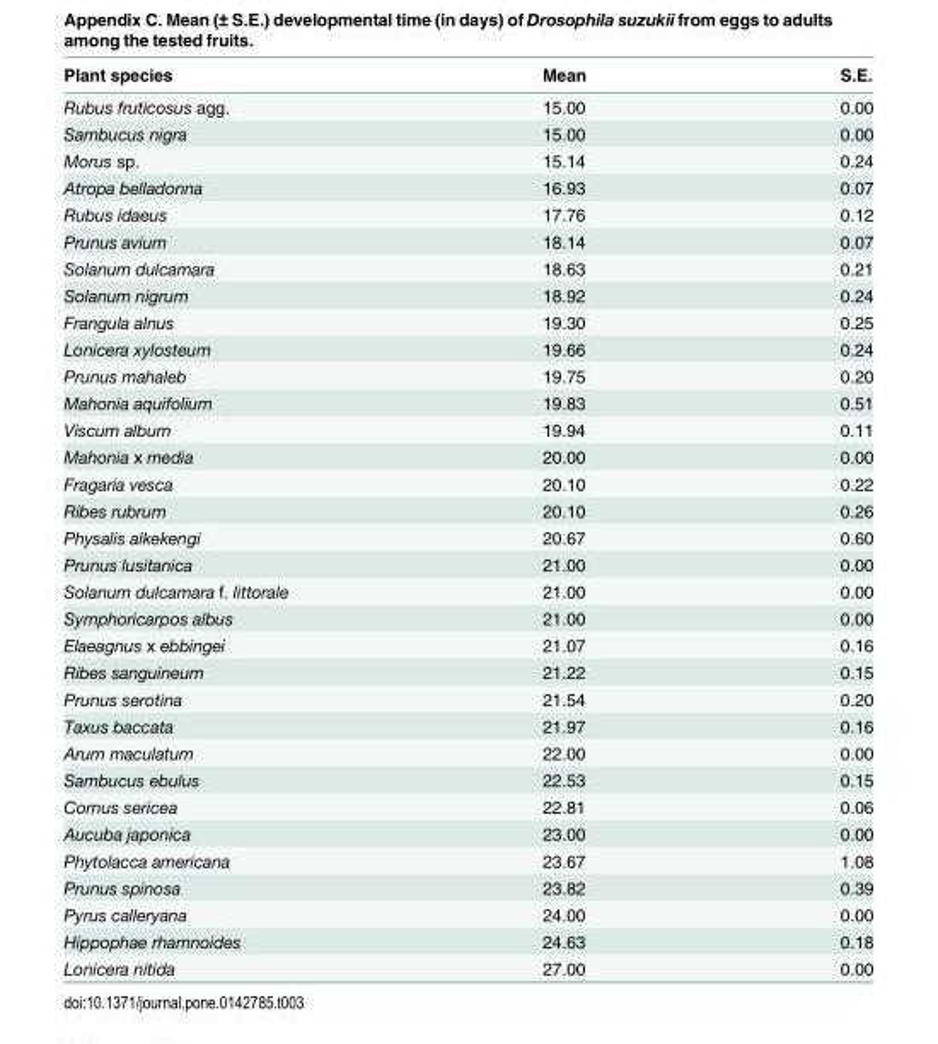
<table><thead><tr><td>Plant species</td><td>Mean</td><td>S.E.</td></tr></thead><tbody><tr><td>Rubus fruticosus agg.</td><td>15.00</td><td>0.00</td></tr><tr><td>Sambucus nigra</td><td>15.00</td><td>0.00</td></tr><tr><td>Morus sp.</td><td>15.14</td><td>0.24</td></tr><tr><td>Atropa belladonna</td><td>16.93</td><td>0.07</td></tr><tr><td>Rubus idaeus</td><td>17.76</td><td>0.12</td></tr><tr><td>Prunus avium</td><td>18.14</td><td>0.07</td></tr><tr><td>Solanum dulcamara</td><td>18.63</td><td>0.21</td></tr><tr><td>Solanum nigrum</td><td>18.92</td><td>0.24</td></tr><tr><td>Frangula alnus</td><td>19.30</td><td>0.25</td></tr><tr><td>Lonicera xylosteum</td><td>19.66</td><td>0.24</td></tr><tr><td>Prunus mahaleb</td><td>19.75</td><td>0.20</td></tr><tr><td>Mahonia aquifolium</td><td>19.83</td><td>0.51</td></tr><tr><td>Viscum album</td><td>19.94</td><td>0.11</td></tr><tr><td>Mahonia x media</td><td>20.00</td><td>0.00</td></tr><tr><td>Fragaria vesca</td><td>20.10</td><td>0.22</td></tr><tr><td>Ribes rubrum</td><td>20.10</td><td>0.26</td></tr><tr><td>Physalis alkekengi</td><td>20.67</td><td>0.60</td></tr><tr><td>Prunus lusitanica</td><td>21.00</td><td>0.00</td></tr><tr><td>Solanum dulcamara f. littorale</td><td>21.00</td><td>0.00</td></tr><tr><td>Symphoricarpos albus</td><td>21.00</td><td>0.00</td></tr><tr><td>Elaeagnus x ebbingei</td><td>21.07</td><td>0.16</td></tr><tr><td>Ribes sanguineum</td><td>21.22</td><td>0.15</td></tr><tr><td>Prunus serotina</td><td>21.54</td><td>0.20</td></tr><tr><td>Taxus baccata</td><td>21.97</td><td>0.16</td></tr><tr><td>Arum maculatum</td><td>22.00</td><td>0.00</td></tr><tr><td>Sambucus ebulus</td><td>22.53</td><td>0.15</td></tr><tr><td>Cornus sericea</td><td>22.81</td><td>0.06</td></tr><tr><td>Aucuba japonica</td><td>23.00</td><td>0.00</td></tr><tr><td>Phytolacca americana</td><td>23.67</td><td>1.08</td></tr><tr><td>Prunus spinosa</td><td>23.82</td><td>0.39</td></tr><tr><td>Pyrus calleryana</td><td>24.00</td><td>0.00</td></tr><tr><td>Hippophae rhamnoides</td><td>24.63</td><td>0.18</td></tr><tr><td>Lonicera nitida</td><td>27.00</td><td>0.00</td></tr></tbody></table>